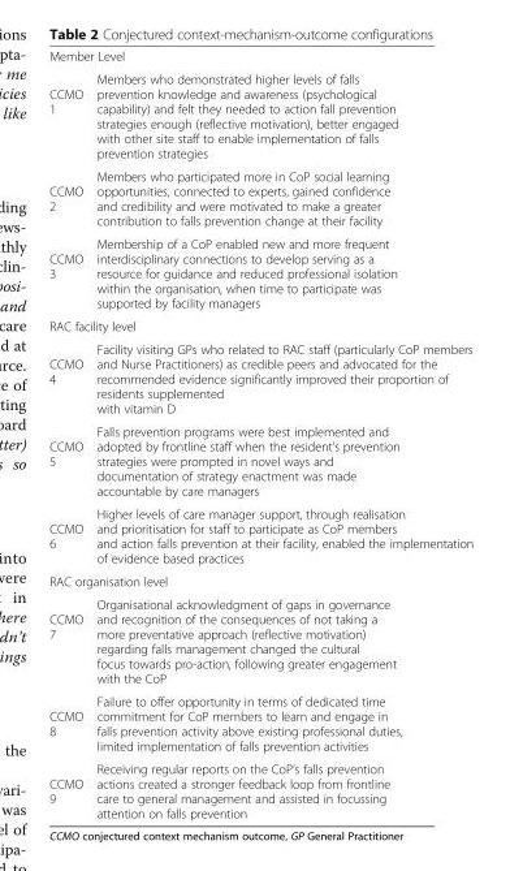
<table><tbody><tr><td colspan="2">Member Level</td></tr><tr><td>CCMO 1</td><td>Members who demonstrated higher levels of falls prevention knowledge and awareness (psychological capability) and felt they needed to action fall prevention strategies enough (reflective motivation), better engaged with other site staff to enable implementation of falls prevention strategies</td></tr><tr><td>CCMO 2</td><td>Members who participated more in CoP social learning opportunities, connected to experts, gained confidence and credibility and were motivated to make a greater contribution to falls prevention change at their facility</td></tr><tr><td>CCMO 3</td><td>Membership of a CoP enabled new and more frequent interdisciplinary connections to develop serving as a resource for guidance and reduced professional isolation within the organisation, when time to participate was supported by facility managers</td></tr><tr><td colspan="2">RAC facility level</td></tr><tr><td>CCMO 4</td><td>Facility visiting GPs who related to RAC staff (particularly CoP members and Nurse Practitioners) as credible peers and advocated for the recommended evidence significantly improved their proportion of residents supplemented with vitamin D</td></tr><tr><td>CCMO 5</td><td>Falls prevention programs were best implemented and adopted by frontline staff when the resident’s prevention strategies were prompted in novel ways and documentation of strategy enactment was made accountable by care managers</td></tr><tr><td>CCMO 6</td><td>Higher levels of care manager support, through realisation and prioritisation for staff to participate as CoP members and action falls prevention at their facility, enabled the implementation of evidence based practices</td></tr><tr><td colspan="2">RAC organisation level</td></tr><tr><td>CCMO 7</td><td>Organisational acknowledgment of gaps in governance and recognition of the consequences of not taking a more preventative approach (reflective motivation) regarding falls management changed the cultural focus towards pro-action, following greater engagement with the CoP</td></tr><tr><td>CCMO 8</td><td>Failure to offer opportunity in terms of dedicated time commitment for CoP members to learn and engage in falls prevention activity above existing professional duties, limited implementation of falls prevention activities</td></tr><tr><td>CCMO 9</td><td>Receiving regular reports on the CoP’s falls prevention actions created a stronger feedback loop from frontline care to general management and assisted in focussing attention on falls prevention</td></tr></tbody></table>